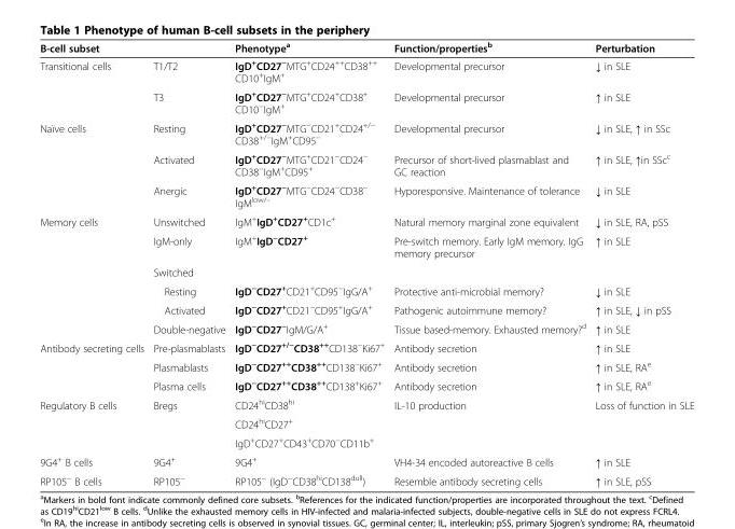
<table><thead><tr><td>B-cell subset</td><td></td><td>Phenotype<sup>a</sup></td><td>Function/properties<sup>b</sup></td><td>Perturbation</td></tr></thead><tbody><tr><td rowspan="2">Transitional cells</td><td>T1/T2</td><td>IgD<sup>+</sup>CD27<sup>−</sup>MTG<sup>+</sup>CD24<sup>++</sup>CD38<sup>++</sup> CD10<sup>+</sup>IgM<sup>+</sup></td><td>Developmental precursor</td><td>↓ in SLE</td></tr><tr><td>T3</td><td>IgD<sup>+</sup>CD27<sup>−</sup>MTG<sup>+</sup>CD24<sup>+</sup>CD38<sup>+</sup> CD10<sup>−</sup>IgM<sup>+</sup></td><td>Developmental precursor</td><td>↑ in SLE</td></tr><tr><td rowspan="3">Naïve cells</td><td>Resting</td><td>IgD<sup>+</sup>CD27<sup>−</sup>MTG<sup>−</sup>CD21<sup>+</sup>CD24<sup>+/−</sup> CD38<sup>+/−</sup>IgM<sup>+</sup>CD95<sup>−</sup></td><td>Developmental precursor</td><td>↓ in SLE, ↑ in SSc</td></tr><tr><td>Activated</td><td>IgD<sup>+</sup>CD27<sup>−</sup>MTG<sup>+</sup>CD21<sup>−</sup>CD24<sup>−</sup> CD38<sup>−</sup>IgM<sup>+</sup>CD95<sup>+</sup></td><td>Precursor of short-lived plasmablast and GC reaction</td><td>↑ in SLE, ↑in SSc<sup>c</sup></td></tr><tr><td>Anergic</td><td>IgD<sup>+</sup>CD27<sup>−</sup>MTG<sup>−</sup>CD24<sup>−</sup>CD38<sup>−</sup> IgM<sup>low/–</sup></td><td>Hyporesponsive. Maintenance of tolerance</td><td>↓ in SLE</td></tr><tr><td rowspan="6">Memory cells</td><td>Unswitched</td><td>IgM<sup>+</sup>IgD<sup>+</sup>CD27<sup>+</sup>CD1c<sup>+</sup></td><td>Natural memory marginal zone equivalent</td><td>↓ in SLE, RA, pSS</td></tr><tr><td>IgM-only</td><td>IgM<sup>+</sup>IgD<sup>−</sup>CD27<sup>+</sup></td><td>Pre-switch memory. Early IgM memory. IgG memory precursor</td><td>↑ in SLE</td></tr><tr><td>Switched</td><td></td><td></td><td></td></tr><tr><td>Resting</td><td>IgD<sup>−</sup>CD27<sup>+</sup>CD21<sup>+</sup>CD95<sup>−</sup>IgG/A<sup>+</sup></td><td>Protective anti-microbial memory?</td><td>↓ in SLE</td></tr><tr><td>Activated</td><td>IgD<sup>−</sup>CD27<sup>+</sup>CD21<sup>−</sup>CD95<sup>+</sup>IgG/A<sup>+</sup></td><td>Pathogenic autoimmune memory?</td><td>↑ in SLE, ↓ in pSS</td></tr><tr><td>Double-negative</td><td>IgD<sup>−</sup>CD27<sup>−</sup>IgM/G/A<sup>+</sup></td><td>Tissue based-memory. Exhausted memory?<sup>d</sup></td><td>↑ in SLE</td></tr><tr><td rowspan="3">Antibody secreting cells</td><td>Pre-plasmablasts</td><td>IgD<sup>−</sup>CD27<sup>+/−</sup>CD38<sup>++</sup>CD138<sup>−</sup>Ki67<sup>+</sup></td><td>Antibody secretion</td><td>↑ in SLE</td></tr><tr><td>Plasmablasts</td><td>IgD<sup>−</sup>CD27<sup>++</sup>CD38<sup>++</sup>CD138<sup>−</sup>Ki67<sup>+</sup></td><td>Antibody secretion</td><td>↑ in SLE, RA<sup>e</sup></td></tr><tr><td>Plasma cells</td><td>IgD<sup>−</sup>CD27<sup>++</sup>CD38<sup>++</sup>CD138<sup>+</sup>Ki67<sup>+</sup></td><td>Antibody secretion</td><td>↑ in SLE, RA<sup>e</sup></td></tr><tr><td rowspan="3">Regulatory B cells</td><td>Bregs</td><td>CD24<sup>hi</sup>CD38<sup>hi</sup></td><td>IL-10 production</td><td>Loss of function in SLE</td></tr><tr><td></td><td>CD24<sup>hi</sup>CD27<sup>+</sup></td><td></td><td></td></tr><tr><td></td><td>IgD<sup>+</sup>CD27<sup>+</sup>CD43<sup>+</sup>CD70<sup>−</sup>CD11b<sup>+</sup></td><td></td><td></td></tr><tr><td>9G4<sup>+</sup> B cells</td><td>9G4<sup>+</sup></td><td>9G4<sup>+</sup></td><td>VH4-34 encoded autoreactive B cells</td><td>↑ in SLE</td></tr><tr><td>RP105<sup>−</sup> B cells</td><td>RP105<sup>−</sup></td><td>RP105<sup>−</sup> (IgD<sup>−</sup>CD38<sup>hi</sup>CD138<sup>dull</sup>)</td><td>Resemble antibody secreting cells</td><td>↑ in SLE, pSS</td></tr></tbody></table>